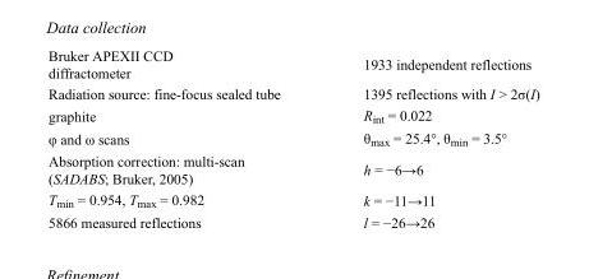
<table><tbody><tr><td>Bruker APEXII CCD diffractometer</td><td>1933 independent reflections</td></tr><tr><td>Radiation source: fine-focus sealed tube</td><td>1395 reflections with I &gt; 2σ(I)</td></tr><tr><td>graphite</td><td>R<sub>int</sub> = 0.022</td></tr><tr><td>φ and ω scans</td><td>θ<sub>max</sub> = 25.4°, θ<sub>min</sub> = 3.5°</td></tr><tr><td>Absorption correction: multi-scan (SADABS; Bruker, 2005)</td><td>h = −6→6</td></tr><tr><td>T<sub>min</sub> = 0.954, T<sub>max</sub> = 0.982</td><td>k = −11→11</td></tr><tr><td>5866 measured reflections</td><td>l = −26→26</td></tr></tbody></table>